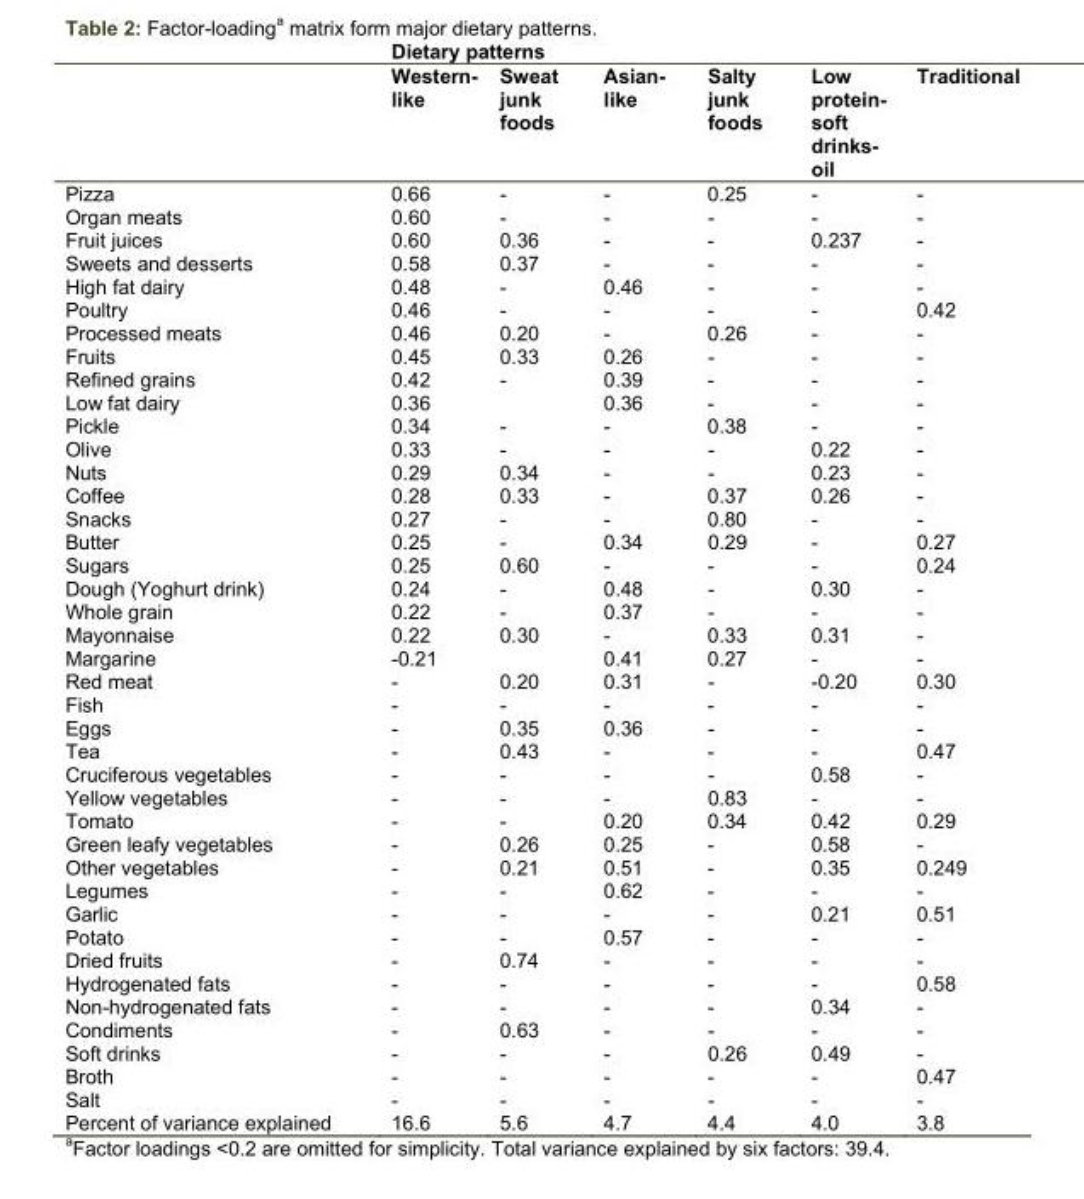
<table><thead><tr><td></td><td>Western- like</td><td>Sweat junk foods</td><td>Asian- like</td><td>Salty junk foods</td><td>Low protein- soft drinks- oil</td><td>Traditional</td></tr></thead><tbody><tr><td>Pizza</td><td>0.66</td><td>-</td><td>-</td><td>0.25</td><td>-</td><td>-</td></tr><tr><td>Organ meats</td><td>0.60</td><td>-</td><td>-</td><td>-</td><td>-</td><td>-</td></tr><tr><td>Fruit juices</td><td>0.60</td><td>0.36</td><td>-</td><td>-</td><td>0.237</td><td>-</td></tr><tr><td>Sweets and desserts</td><td>0.58</td><td>0.37</td><td>-</td><td>-</td><td>-</td><td>-</td></tr><tr><td>High fat dairy</td><td>0.48</td><td>-</td><td>0.46</td><td>-</td><td>-</td><td>-</td></tr><tr><td>Poultry</td><td>0.46</td><td>-</td><td>-</td><td>-</td><td>-</td><td>0.42</td></tr><tr><td>Processed meats</td><td>0.46</td><td>0.20</td><td>-</td><td>0.26</td><td>-</td><td>-</td></tr><tr><td>Fruits</td><td>0.45</td><td>0.33</td><td>0.26</td><td>-</td><td>-</td><td>-</td></tr><tr><td>Refined grains</td><td>0.42</td><td>-</td><td>0.39</td><td>-</td><td>-</td><td>-</td></tr><tr><td>Low fat dairy</td><td>0.36</td><td></td><td>0.36</td><td>-</td><td>-</td><td>-</td></tr><tr><td>Pickle</td><td>0.34</td><td>-</td><td>-</td><td>0.38</td><td>-</td><td>-</td></tr><tr><td>Olive</td><td>0.33</td><td>-</td><td>-</td><td>-</td><td>0.22</td><td>-</td></tr><tr><td>Nuts</td><td>0.29</td><td>0.34</td><td>-</td><td>-</td><td>0.23</td><td>-</td></tr><tr><td>Coffee</td><td>0.28</td><td>0.33</td><td>-</td><td>0.37</td><td>0.26</td><td>-</td></tr><tr><td>Snacks</td><td>0.27</td><td>-</td><td>-</td><td>0.80</td><td>-</td><td>-</td></tr><tr><td>Butter</td><td>0.25</td><td>-</td><td>0.34</td><td>0.29</td><td>-</td><td>0.27</td></tr><tr><td>Sugars</td><td>0.25</td><td>0.60</td><td>-</td><td>-</td><td>-</td><td>0.24</td></tr><tr><td>Dough (Yoghurt drink)</td><td>0.24</td><td>-</td><td>0.48</td><td>-</td><td>0.30</td><td>-</td></tr><tr><td>Whole grain</td><td>0.22</td><td>-</td><td>0.37</td><td>-</td><td>-</td><td>-</td></tr><tr><td>Mayonnaise</td><td>0.22</td><td>0.30</td><td>-</td><td>0.33</td><td>0.31</td><td>-</td></tr><tr><td>Margarine</td><td>-0.21</td><td></td><td>0.41</td><td>0.27</td><td>-</td><td>-</td></tr><tr><td>Red meat</td><td>-</td><td>0.20</td><td>0.31</td><td>-</td><td>-0.20</td><td>0.30</td></tr><tr><td>Fish</td><td>-</td><td>-</td><td>-</td><td>-</td><td>-</td><td>-</td></tr><tr><td>Eggs</td><td>-</td><td>0.35</td><td>0.36</td><td>-</td><td>-</td><td>-</td></tr><tr><td>Tea</td><td>-</td><td>0.43</td><td>-</td><td>-</td><td>-</td><td>0.47</td></tr><tr><td>Cruciferous vegetables</td><td>-</td><td>-</td><td>-</td><td>-</td><td>0.58</td><td>-</td></tr><tr><td>Yellow vegetables</td><td>-</td><td>-</td><td>-</td><td>0.83</td><td>-</td><td>-</td></tr><tr><td>Tomato</td><td>-</td><td>-</td><td>0.20</td><td>0.34</td><td>0.42</td><td>0.29</td></tr><tr><td>Green leafy vegetables</td><td>-</td><td>0.26</td><td>0.25</td><td>-</td><td>0.58</td><td>-</td></tr><tr><td>Other vegetables</td><td>-</td><td>0.21</td><td>0.51</td><td>-</td><td>0.35</td><td>0.249</td></tr><tr><td>Legumes</td><td>-</td><td>-</td><td>0.62</td><td>-</td><td>-</td><td>-</td></tr><tr><td>Garlic</td><td>-</td><td>-</td><td>-</td><td>-</td><td>0.21</td><td>0.51</td></tr><tr><td>Potato</td><td>-</td><td>-</td><td>0.57</td><td>-</td><td>-</td><td>-</td></tr><tr><td>Dried fruits</td><td>-</td><td>0.74</td><td>-</td><td>-</td><td>-</td><td>-</td></tr><tr><td>Hydrogenated fats</td><td>-</td><td>-</td><td>-</td><td>-</td><td>-</td><td>0.58</td></tr><tr><td>Non-hydrogenated fats</td><td>-</td><td>-</td><td>-</td><td>-</td><td>0.34</td><td>-</td></tr><tr><td>Condiments</td><td>-</td><td>0.63</td><td>-</td><td>-</td><td>-</td><td>-</td></tr><tr><td>Soft drinks</td><td>-</td><td>-</td><td>-</td><td>0.26</td><td>0.49</td><td>-</td></tr><tr><td>Broth</td><td>-</td><td>-</td><td>-</td><td>-</td><td>-</td><td>0.47</td></tr><tr><td>Salt</td><td>-</td><td>-</td><td>-</td><td>-</td><td>-</td><td>-</td></tr><tr><td>Percent of variance explained</td><td>16.6</td><td>5.6</td><td>4.7</td><td>4.4</td><td>4.0</td><td>3.8</td></tr></tbody></table>